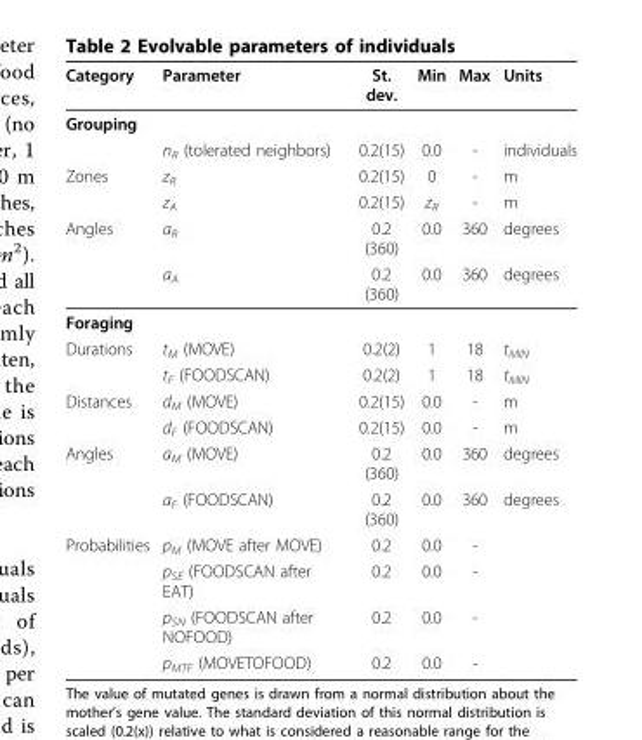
<table><thead><tr><td>Category</td><td>Parameter</td><td>St. dev.</td><td>Min</td><td>Max</td><td>Units</td></tr></thead><tbody><tr><td colspan="6">Grouping</td></tr><tr><td></td><td>n<sub>R</sub> (tolerated neighbors)</td><td>0.2(15)</td><td>0.0</td><td>-</td><td>individuals</td></tr><tr><td rowspan="2">Zones</td><td>z<sub>R</sub></td><td>0.2(15)</td><td>0</td><td>-</td><td>m</td></tr><tr><td>z<sub>A</sub></td><td>0.2(15)</td><td>z<sub>R</sub></td><td>-</td><td>m</td></tr><tr><td rowspan="2">Angles</td><td>a<sub>R</sub></td><td>0.2 (360)</td><td>0.0</td><td>360</td><td>degrees</td></tr><tr><td>a<sub>A</sub></td><td>0.2 (360)</td><td>0.0</td><td>360</td><td>degrees</td></tr><tr><td colspan="6">Foraging</td></tr><tr><td rowspan="2">Durations</td><td>t<sub>M</sub> (MOVE)</td><td>0.2(2)</td><td>1</td><td>18</td><td>t<sub>MIN</sub></td></tr><tr><td>t<sub>F</sub> (FOODSCAN)</td><td>0.2(2)</td><td>1</td><td>18</td><td>t<sub>MIN</sub></td></tr><tr><td rowspan="2">Distances</td><td>d<sub>M</sub> (MOVE)</td><td>0.2(15)</td><td>0.0</td><td>-</td><td>m</td></tr><tr><td>d<sub>F</sub> (FOODSCAN)</td><td>0.2(15)</td><td>0.0</td><td>-</td><td>m</td></tr><tr><td rowspan="2">Angles</td><td>a<sub>M</sub> (MOVE)</td><td>0.2 (360)</td><td>0.0</td><td>360</td><td>degrees</td></tr><tr><td>a<sub>F</sub> (FOODSCAN)</td><td>0.2 (360)</td><td>0.0</td><td>360</td><td>degrees</td></tr><tr><td rowspan="4">Probabilities</td><td>p<sub>M</sub> (MOVE after MOVE)</td><td>0.2</td><td>0.0</td><td>-</td><td></td></tr><tr><td>p<sub>SE</sub> (FOODSCAN after EAT)</td><td>0.2</td><td>0.0</td><td>-</td><td></td></tr><tr><td>p<sub>SN</sub> (FOODSCAN after NOFOOD)</td><td>0.2</td><td>0.0</td><td>-</td><td></td></tr><tr><td>p<sub>MTF</sub> (MOVETOFOOD)</td><td>0.2</td><td>0.0</td><td>-</td><td></td></tr></tbody></table>